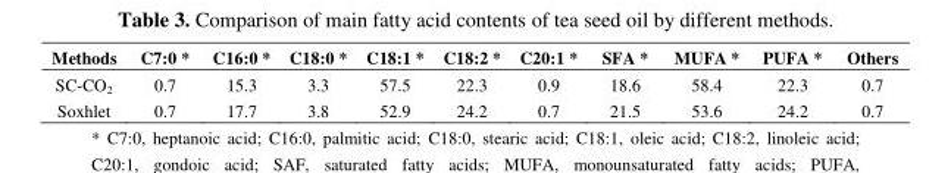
<table><thead><tr><td>Methods</td><td>C7:0 *</td><td>C16:0 *</td><td>C18:0 *</td><td>C18:1 *</td><td>C18:2 *</td><td>C20:1 *</td><td>SFA *</td><td>MUFA *</td><td>PUFA *</td><td>Others</td></tr></thead><tbody><tr><td>SC-CO<sub>2</sub></td><td>0.7</td><td>15.3</td><td>3.3</td><td>57.5</td><td>22.3</td><td>0.9</td><td>18.6</td><td>58.4</td><td>22.3</td><td>0.7</td></tr><tr><td>Soxhlet</td><td>0.7</td><td>17.7</td><td>3.8</td><td>52.9</td><td>24.2</td><td>0.7</td><td>21.5</td><td>53.6</td><td>24.2</td><td>0.7</td></tr></tbody></table>